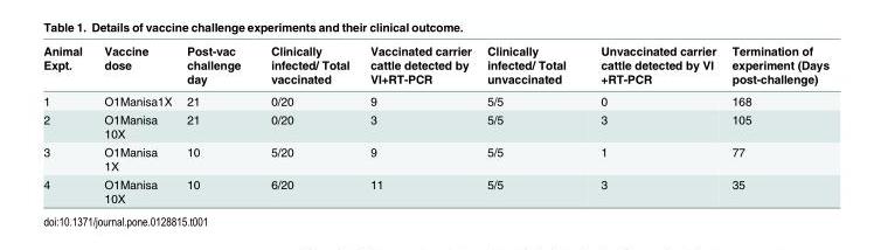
<table><thead><tr><td>Animal Expt.</td><td>Vaccine dose</td><td>Post-vac challenge day</td><td>Clinically infected/ Total vaccinated</td><td>Vaccinated carrier cattle detected by VI+RT-PCR</td><td>Clinically infected/ Total unvaccinated</td><td>Unvaccinated carrier cattle detected by VI +RT-PCR</td><td>Termination of experiment (Days post-challenge)</td></tr></thead><tbody><tr><td>1</td><td>O1Manisa1X</td><td>21</td><td>0/20</td><td>9</td><td>5/5</td><td>0</td><td>168</td></tr><tr><td>2</td><td>O1Manisa 10X</td><td>21</td><td>0/20</td><td>3</td><td>5/5</td><td>3</td><td>105</td></tr><tr><td>3</td><td>O1Manisa 1X</td><td>10</td><td>5/20</td><td>9</td><td>5/5</td><td>1</td><td>77</td></tr><tr><td>4</td><td>O1Manisa 10X</td><td>10</td><td>6/20</td><td>11</td><td>5/5</td><td>3</td><td>35</td></tr></tbody></table>